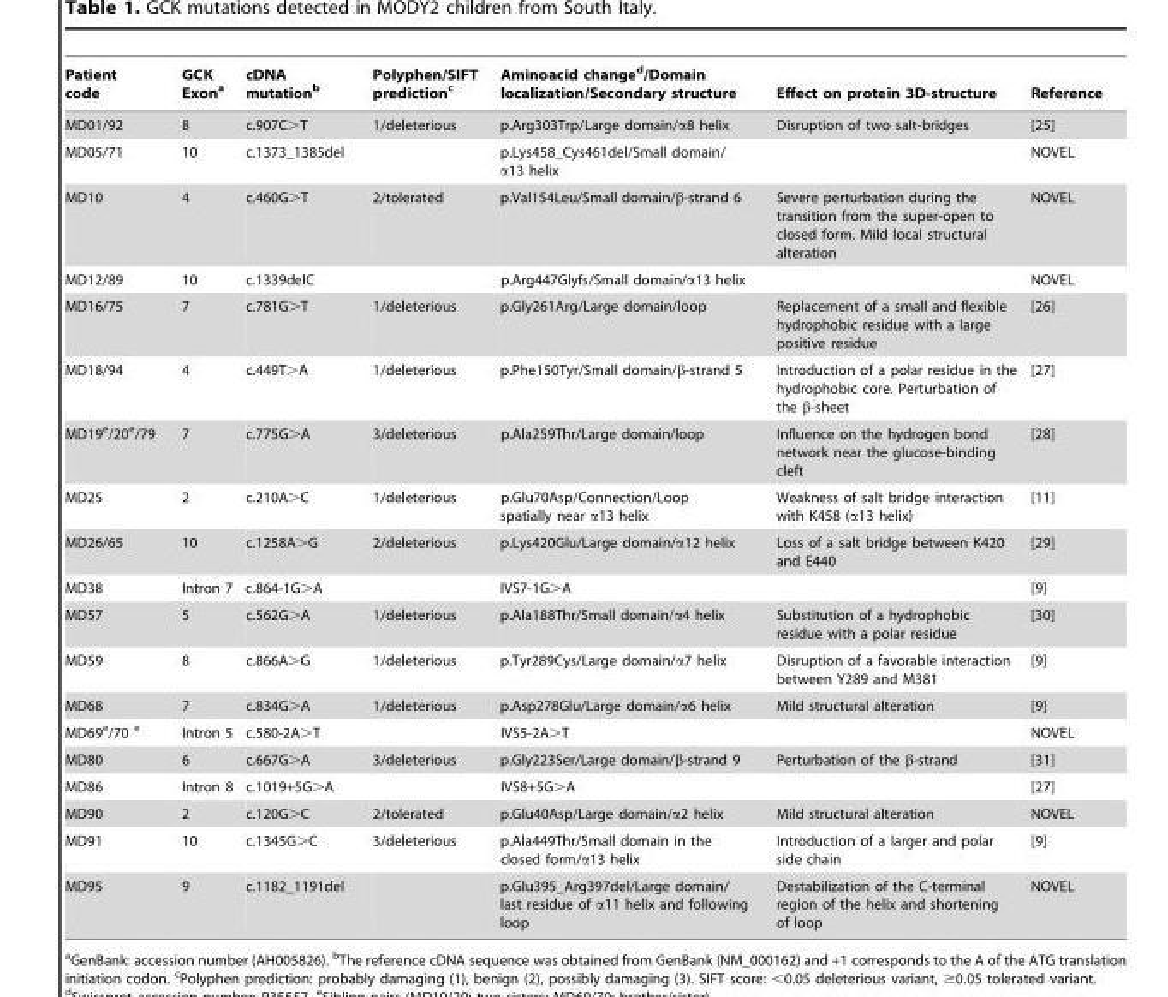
<table><thead><tr><td>Patient code</td><td>GCK Exon<sup>a</sup></td><td>cDNA mutation<sup>b</sup></td><td>Polyphen/SIFT prediction<sup>c</sup></td><td>Aminoacid change<sup>d</sup>/Domain localization/Secondary structure</td><td>Effect on protein 3D-structure</td><td>Reference</td></tr></thead><tbody><tr><td>MD01/92</td><td>8</td><td>c.907C&gt;T</td><td>1/deleterious</td><td>p.Arg303Trp/Large domain/α8 helix</td><td>Disruption of two salt-bridges</td><td>[25]</td></tr><tr><td>MD05/71</td><td>10</td><td>c.1373_1385del</td><td></td><td>p.Lys458_Cys461del/Small domain/ α13 helix</td><td></td><td>NOVEL</td></tr><tr><td>MD10</td><td>4</td><td>c.460G&gt;T</td><td>2/tolerated</td><td>p.Val154Leu/Small domain/β-strand 6</td><td>Severe perturbation during the transition from the super-open to closed form. Mild local structural alteration</td><td>NOVEL</td></tr><tr><td>MD12/89</td><td>10</td><td>c.1339delC</td><td></td><td>p.Arg447Glyfs/Small domain/α13 helix</td><td></td><td>NOVEL</td></tr><tr><td>MD16/75</td><td>7</td><td>c.781G&gt;T</td><td>1/deleterious</td><td>p.Gly261Arg/Large domain/loop</td><td>Replacement of a small and flexible hydrophobic residue with a large positive residue</td><td>[26]</td></tr><tr><td>MD18/94</td><td>4</td><td>c.449T&gt;A</td><td>1/deleterious</td><td>p.Phe150Tyr/Small domain/β-strand 5</td><td>Introduction of a polar residue in the hydrophobic core. Perturbation of the β-sheet</td><td>[27]</td></tr><tr><td>MD19<sup>e</sup>/20<sup>e</sup>/79</td><td>7</td><td>c.775G&gt;A</td><td>3/deleterious</td><td>p.Ala259Thr/Large domain/loop</td><td>Influence on the hydrogen bond network near the glucose-binding cleft</td><td>[28]</td></tr><tr><td>MD25</td><td>2</td><td>c.210A&gt;C</td><td>1/deleterious</td><td>p.Glu70Asp/Connection/Loop spatially near α13 helix</td><td>Weakness of salt bridge interaction with K458 (α13 helix)</td><td>[11]</td></tr><tr><td>MD26/65</td><td>10</td><td>c.1258A&gt;G</td><td>2/deleterious</td><td>p.Lys420Glu/Large domain/α12 helix</td><td>Loss of a salt bridge between K420 and E440</td><td>[29]</td></tr><tr><td>MD38</td><td>Intron 7</td><td>c.864-1G&gt;A</td><td></td><td>IVS7-1G&gt;A</td><td></td><td>[9]</td></tr><tr><td>MD57</td><td>5</td><td>c.562G&gt;A</td><td>1/deleterious</td><td>p.Ala188Thr/Small domain/α4 helix</td><td>Substitution of a hydrophobic residue with a polar residue</td><td>[30]</td></tr><tr><td>MD59</td><td>8</td><td>c.866A&gt;G</td><td>1/deleterious</td><td>p.Tyr289Cys/Large domain/α7 helix</td><td>Disruption of a favorable interaction between Y289 and M381</td><td>[9]</td></tr><tr><td>MD68</td><td>7</td><td>c.834G&gt;A</td><td>1/deleterious</td><td>p.Asp278Glu/Large domain/α6 helix</td><td>Mild structural alteration</td><td>[9]</td></tr><tr><td>MD69<sup>e</sup>/70 <sup>e</sup></td><td>Intron 5</td><td>c.580-2A&gt;T</td><td></td><td>IVS5-2A&gt;T</td><td></td><td>NOVEL</td></tr><tr><td>MD80</td><td>6</td><td>c.667G&gt;A</td><td>3/deleterious</td><td>p.Gly223Ser/Large domain/β-strand 9</td><td>Perturbation of the β-strand</td><td>[31]</td></tr><tr><td>MD86</td><td>Intron 8</td><td>c.1019+5G&gt;A</td><td></td><td>IVS8+5G&gt;A</td><td></td><td>[27]</td></tr><tr><td>MD90</td><td>2</td><td>c.120G&gt;C</td><td>2/tolerated</td><td>p.Glu40Asp/Large domain/α2 helix</td><td>Mild structural alteration</td><td>NOVEL</td></tr><tr><td>MD91</td><td>10</td><td>c.1345G&gt;C</td><td>3/deleterious</td><td>p.Ala449Thr/Small domain in the closed form/α13 helix</td><td>Introduction of a larger and polar side chain</td><td>[9]</td></tr><tr><td>MD95</td><td>9</td><td>c.1182_1191del</td><td></td><td>p.Glu395_Arg397del/Large domain/ last residue of α11 helix and following loop</td><td>Destabilization of the C-terminal region of the helix and shortening of loop</td><td>NOVEL</td></tr></tbody></table>